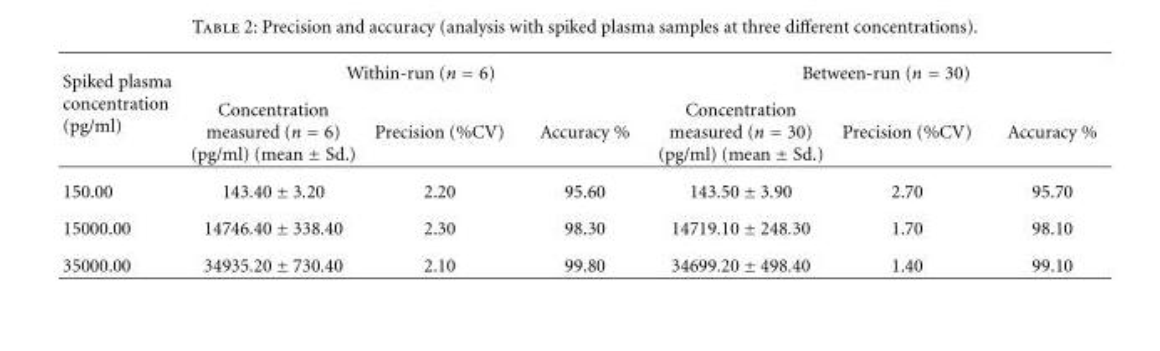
<table><thead><tr><td rowspan="2">Spiked plasma concentration (pg/ml)</td><td colspan="3">Within-run (n = 6)</td><td colspan="3">Between-run (n = 30)</td></tr><tr><td>Concentration measured (n = 6) (pg/ml) (mean ± Sd.)</td><td>Precision (%CV)</td><td>Accuracy %</td><td>Concentration measured (n = 30) (pg/ml) (mean ± Sd.)</td><td>Precision (%CV)</td><td>Accuracy %</td></tr></thead><tbody><tr><td>150.00</td><td>143.40 ± 3.20</td><td>2.20</td><td>95.60</td><td>143.50 ± 3.90</td><td>2.70</td><td>95.70</td></tr><tr><td>15000.00</td><td>14746.40 ± 338.40</td><td>2.30</td><td>98.30</td><td>14719.10 ± 248.30</td><td>1.70</td><td>98.10</td></tr><tr><td>35000.00</td><td>34935.20 ± 730.40</td><td>2.10</td><td>99.80</td><td>34699.20 ± 498.40</td><td>1.40</td><td>99.10</td></tr></tbody></table>